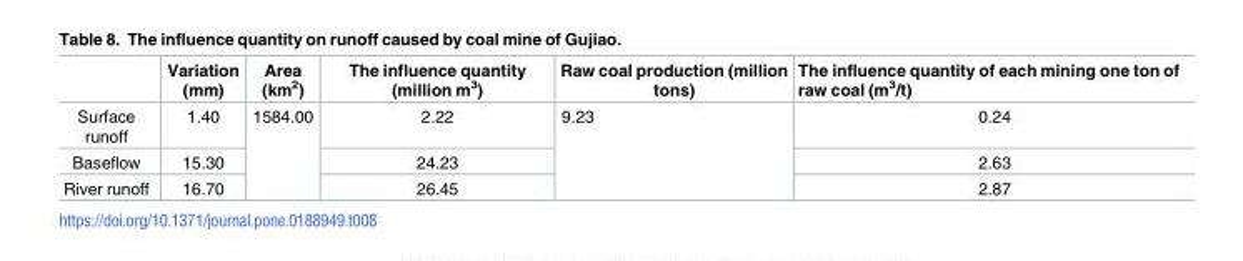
<table><thead><tr><td></td><td>Variation (mm)</td><td>Area (km<sup>2</sup>)</td><td>The influence quantity (million m<sup>3</sup>)</td><td>Raw coal production (million tons)</td><td>The influence quantity of each mining one ton of raw coal (m<sup>3</sup>/t)</td></tr></thead><tbody><tr><td>Surface runoff</td><td>1.40</td><td rowspan="3">1584.00</td><td>2.22</td><td rowspan="3">9.23</td><td>0.24</td></tr><tr><td>Baseflow</td><td>15.30</td><td>24.23</td><td>2.63</td></tr><tr><td>River runoff</td><td>16.70</td><td>26.45</td><td>2.87</td></tr></tbody></table>